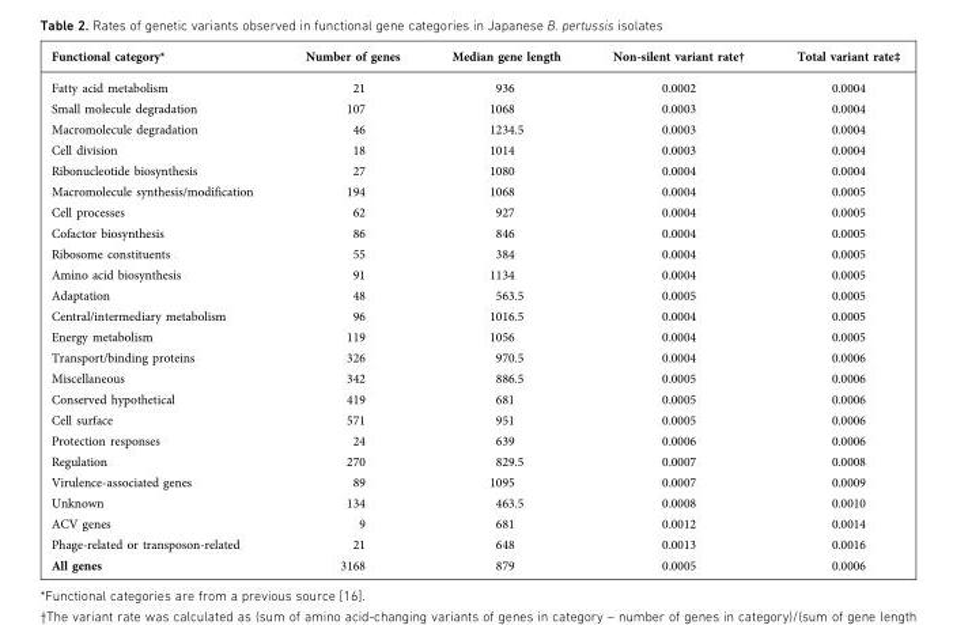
<table><thead><tr><td>Functional category*</td><td>Number of genes</td><td>Median gene length</td><td>Non-silent variant rate†</td><td>Total variant rate‡</td></tr></thead><tbody><tr><td>Fatty acid metabolism</td><td>21</td><td>936</td><td>0.0002</td><td>0.0004</td></tr><tr><td>Small molecule degradation</td><td>107</td><td>1068</td><td>0.0003</td><td>0.0004</td></tr><tr><td>Macromolecule degradation</td><td>46</td><td>1234.5</td><td>0.0003</td><td>0.0004</td></tr><tr><td>Cell division</td><td>18</td><td>1014</td><td>0.0003</td><td>0.0004</td></tr><tr><td>Ribonucleotide biosynthesis</td><td>27</td><td>1080</td><td>0.0004</td><td>0.0004</td></tr><tr><td>Macromolecule synthesis/modification</td><td>194</td><td>1068</td><td>0.0004</td><td>0.0005</td></tr><tr><td>Cell processes</td><td>62</td><td>927</td><td>0.0004</td><td>0.0005</td></tr><tr><td>Cofactor biosynthesis</td><td>86</td><td>846</td><td>0.0004</td><td>0.0005</td></tr><tr><td>Ribosome constituents</td><td>55</td><td>384</td><td>0.0004</td><td>0.0005</td></tr><tr><td>Amino acid biosynthesis</td><td>91</td><td>1134</td><td>0.0004</td><td>0.0005</td></tr><tr><td>Adaptation</td><td>48</td><td>563.5</td><td>0.0005</td><td>0.0005</td></tr><tr><td>Central/intermediary metabolism</td><td>96</td><td>1016.5</td><td>0.0004</td><td>0.0005</td></tr><tr><td>Energy metabolism</td><td>119</td><td>1056</td><td>0.0004</td><td>0.0005</td></tr><tr><td>Transport/binding proteins</td><td>326</td><td>970.5</td><td>0.0004</td><td>0.0006</td></tr><tr><td>Miscellaneous</td><td>342</td><td>886.5</td><td>0.0005</td><td>0.0006</td></tr><tr><td>Conserved hypothetical</td><td>419</td><td>681</td><td>0.0005</td><td>0.0006</td></tr><tr><td>Cell surface</td><td>571</td><td>951</td><td>0.0005</td><td>0.0006</td></tr><tr><td>Protection responses</td><td>24</td><td>639</td><td>0.0006</td><td>0.0006</td></tr><tr><td>Regulation</td><td>270</td><td>829.5</td><td>0.0007</td><td>0.0008</td></tr><tr><td>Virulence-associated genes</td><td>89</td><td>1095</td><td>0.0007</td><td>0.0009</td></tr><tr><td>Unknown</td><td>134</td><td>463.5</td><td>0.0008</td><td>0.0010</td></tr><tr><td>ACV genes</td><td>9</td><td>681</td><td>0.0012</td><td>0.0014</td></tr><tr><td>Phage-related or transposon-related</td><td>21</td><td>648</td><td>0.0013</td><td>0.0016</td></tr><tr><td>All genes</td><td>3168</td><td>879</td><td>0.0005</td><td>0.0006</td></tr></tbody></table>